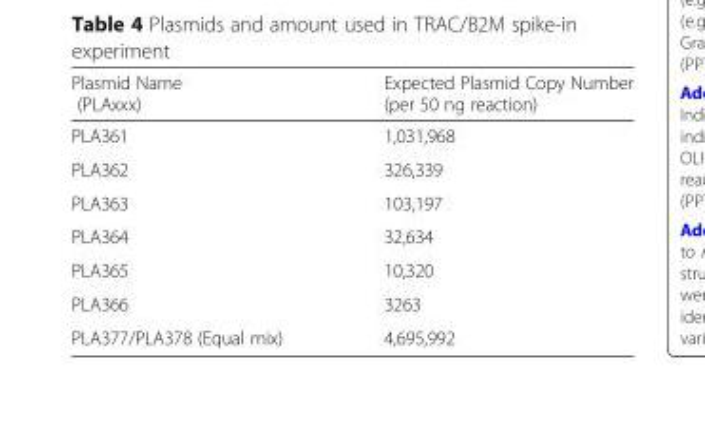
<table><thead><tr><td>Plasmid Name (PLAxxx)</td><td>Expected Plasmid Copy Number (per 50 ng reaction)</td></tr></thead><tbody><tr><td>PLA361</td><td>1,031,968</td></tr><tr><td>PLA362</td><td>326,339</td></tr><tr><td>PLA363</td><td>103,197</td></tr><tr><td>PLA364</td><td>32,634</td></tr><tr><td>PLA365</td><td>10,320</td></tr><tr><td>PLA366</td><td>3263</td></tr><tr><td>PLA377/PLA378 (Equal mix)</td><td>4,695,992</td></tr></tbody></table>